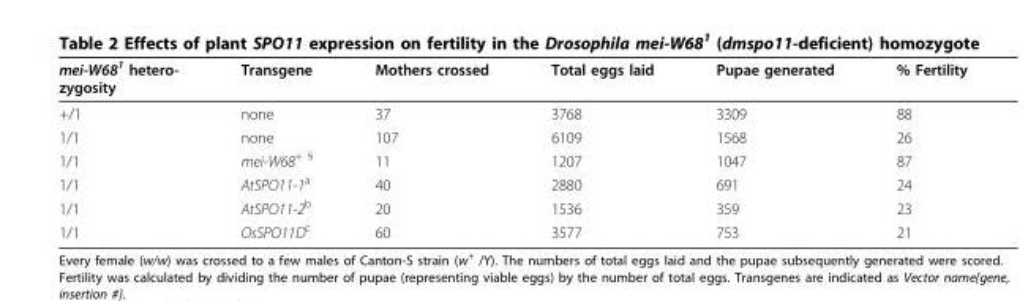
<table><thead><tr><td>mei-W68<sup>1</sup> hetero- zygosity</td><td>Transgene</td><td>Mothers crossed</td><td>Total eggs laid</td><td>Pupae generated</td><td>% Fertility</td></tr></thead><tbody><tr><td>+/1</td><td>none</td><td>37</td><td>3768</td><td>3309</td><td>88</td></tr><tr><td>1/1</td><td>none</td><td>107</td><td>6109</td><td>1568</td><td>26</td></tr><tr><td>1/1</td><td>mei-W68<sup>+ §</sup></td><td>11</td><td>1207</td><td>1047</td><td>87</td></tr><tr><td>1/1</td><td>AtSPO11-1<sup>a</sup></td><td>40</td><td>2880</td><td>691</td><td>24</td></tr><tr><td>1/1</td><td>AtSPO11-2<sup>b</sup></td><td>20</td><td>1536</td><td>359</td><td>23</td></tr><tr><td>1/1</td><td>OsSPO11D<sup>c</sup></td><td>60</td><td>3577</td><td>753</td><td>21</td></tr></tbody></table>